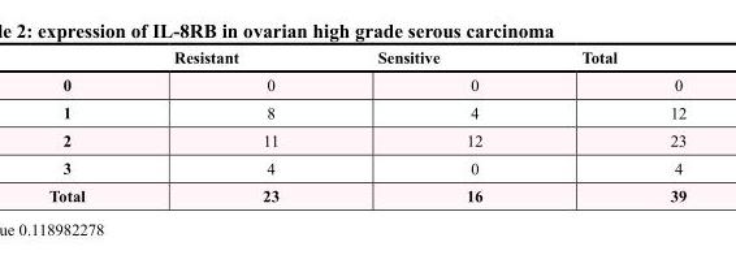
<table><thead><tr><td></td><td>Resistant</td><td>Sensitive</td><td>Total</td></tr></thead><tbody><tr><td>0</td><td>0</td><td>0</td><td>0</td></tr><tr><td>1</td><td>8</td><td>4</td><td>12</td></tr><tr><td>2</td><td>11</td><td>12</td><td>23</td></tr><tr><td>3</td><td>4</td><td>0</td><td>4</td></tr><tr><td>Total</td><td>23</td><td>16</td><td>39</td></tr></tbody></table>